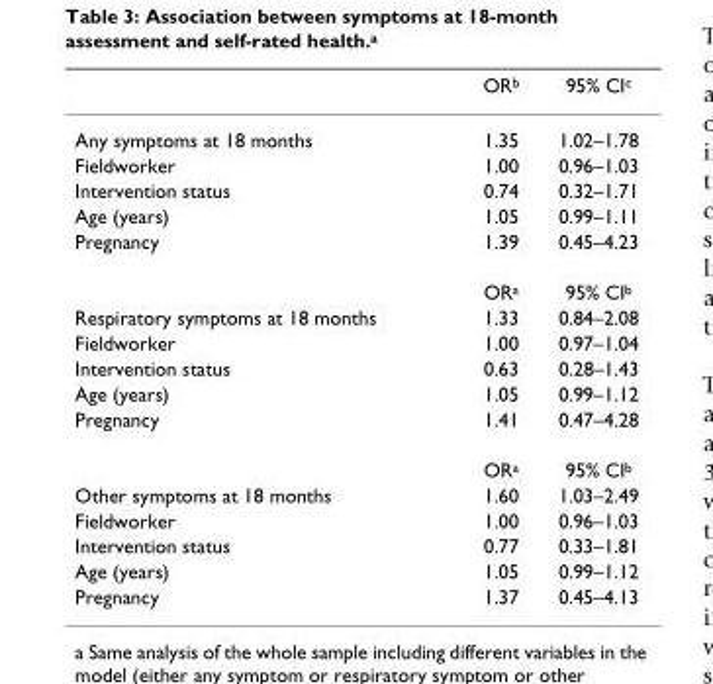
<table><thead><tr><td></td><td>OR<sup>b</sup></td><td>95% CI<sup>c</sup></td></tr></thead><tbody><tr><td>Any symptoms at 18 months</td><td>1.35</td><td>1.02–1.78</td></tr><tr><td>Fieldworker</td><td>1.00</td><td>0.96–1.03</td></tr><tr><td>Intervention status</td><td>0.74</td><td>0.32–1.71</td></tr><tr><td>Age (years)</td><td>1.05</td><td>0.99–1.11</td></tr><tr><td rowspan="2">Pregnancy</td><td>1.39</td><td>0.45–4.23</td></tr><tr><td>OR<sup>a</sup></td><td>95% CI<sup>b</sup></td></tr><tr><td>Respiratory symptoms at 18 months</td><td>1.33</td><td>0.84–2.08</td></tr><tr><td>Fieldworker</td><td>1.00</td><td>0.97–1.04</td></tr><tr><td>Intervention status</td><td>0.63</td><td>0.28–1.43</td></tr><tr><td>Age (years)</td><td>1.05</td><td>0.99–1.12</td></tr><tr><td rowspan="2">Pregnancy</td><td>1.41</td><td>0.47–4.28</td></tr><tr><td>OR<sup>a</sup></td><td>95% CI<sup>b</sup></td></tr><tr><td>Other symptoms at 18 months</td><td>1.60</td><td>1.03–2.49</td></tr><tr><td>Fieldworker</td><td>1.00</td><td>0.96–1.03</td></tr><tr><td>Intervention status</td><td>0.77</td><td>0.33–1.81</td></tr><tr><td>Age (years)</td><td>1.05</td><td>0.99–1.12</td></tr><tr><td>Pregnancy</td><td>1.37</td><td>0.45–4.13</td></tr></tbody></table>